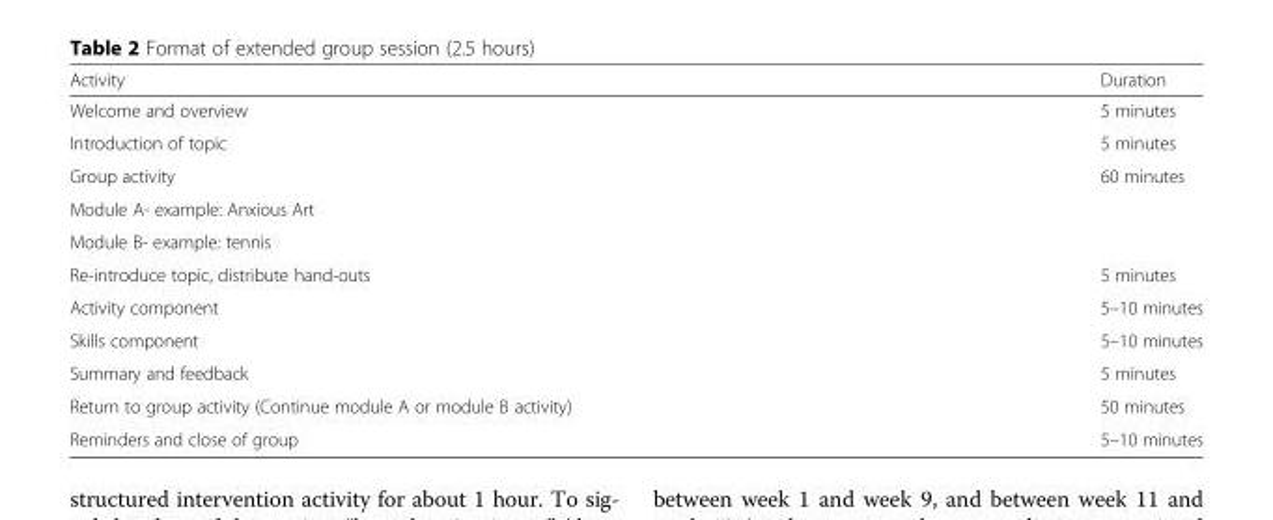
<table><thead><tr><td>Activity</td><td>Duration</td></tr></thead><tbody><tr><td>Welcome and overview</td><td>5 minutes</td></tr><tr><td>Introduction of topic</td><td>5 minutes</td></tr><tr><td>Group activity</td><td rowspan="3">60 minutes</td></tr><tr><td>Module A- example: Anxious Art</td></tr><tr><td>Module B- example: tennis</td></tr><tr><td>Re-introduce topic, distribute hand-outs</td><td>5 minutes</td></tr><tr><td>Activity component</td><td>5–10 minutes</td></tr><tr><td>Skills component</td><td>5–10 minutes</td></tr><tr><td>Summary and feedback</td><td>5 minutes</td></tr><tr><td>Return to group activity (Continue module A or module B activity)</td><td>50 minutes</td></tr><tr><td>Reminders and close of group</td><td>5–10 minutes</td></tr></tbody></table>